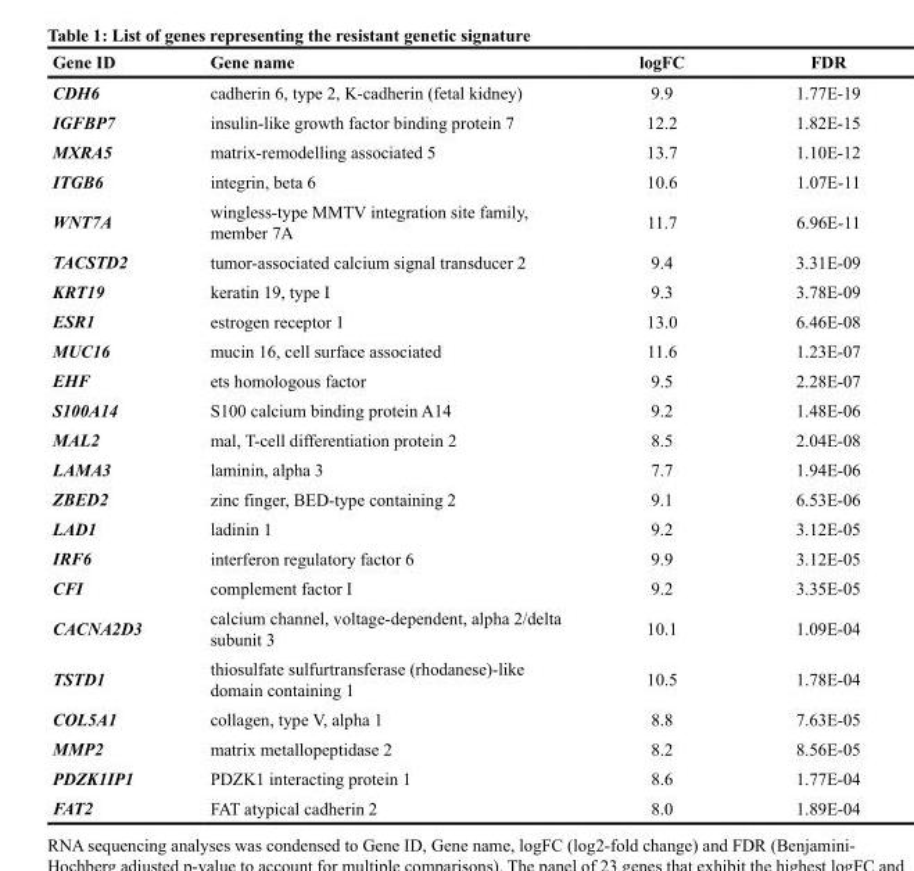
<table><thead><tr><td>Gene ID</td><td>Gene name</td><td>logFC</td><td>FDR</td></tr></thead><tbody><tr><td>CDH6</td><td>cadherin 6, type 2, K-cadherin (fetal kidney)</td><td>9.9</td><td>1.77E-19</td></tr><tr><td>IGFBP7</td><td>insulin-like growth factor binding protein 7</td><td>12.2</td><td>1.82E-15</td></tr><tr><td>MXRA5</td><td>matrix-remodelling associated 5</td><td>13.7</td><td>1.10E-12</td></tr><tr><td>ITGB6</td><td>integrin, beta 6</td><td>10.6</td><td>1.07E-11</td></tr><tr><td>WNT7A</td><td>wingless-type MMTV integration site family, member 7A</td><td>11.7</td><td>6.96E-11</td></tr><tr><td>TACSTD2</td><td>tumor-associated calcium signal transducer 2</td><td>9.4</td><td>3.31E-09</td></tr><tr><td>KRT19</td><td>keratin 19, type I</td><td>9.3</td><td>3.78E-09</td></tr><tr><td>ESR1</td><td>estrogen receptor 1</td><td>13.0</td><td>6.46E-08</td></tr><tr><td>MUC16</td><td>mucin 16, cell surface associated</td><td>11.6</td><td>1.23E-07</td></tr><tr><td>EHF</td><td>ets homologous factor</td><td>9.5</td><td>2.28E-07</td></tr><tr><td>S100A14</td><td>S100 calcium binding protein A14</td><td>9.2</td><td>1.48E-06</td></tr><tr><td>MAL2</td><td>mal, T-cell differentiation protein 2</td><td>8.5</td><td>2.04E-08</td></tr><tr><td>LAMA3</td><td>laminin, alpha 3</td><td>7.7</td><td>1.94E-06</td></tr><tr><td>ZBED2</td><td>zinc finger, BED-type containing 2</td><td>9.1</td><td>6.53E-06</td></tr><tr><td>LAD1</td><td>ladinin 1</td><td>9.2</td><td>3.12E-05</td></tr><tr><td>IRF6</td><td>interferon regulatory factor 6</td><td>9.9</td><td>3.12E-05</td></tr><tr><td>CFI</td><td>complement factor I</td><td>9.2</td><td>3.35E-05</td></tr><tr><td>CACNA2D3</td><td>calcium channel, voltage-dependent, alpha 2/delta subunit 3</td><td>10.1</td><td>1.09E-04</td></tr><tr><td>TSTD1</td><td>thiosulfate sulfurtransferase (rhodanese)-like domain containing 1</td><td>10.5</td><td>1.78E-04</td></tr><tr><td>COL5A1</td><td>collagen, type V, alpha 1</td><td>8.8</td><td>7.63E-05</td></tr><tr><td>MMP2</td><td>matrix metallopeptidase 2</td><td>8.2</td><td>8.56E-05</td></tr><tr><td>PDZK1IP1</td><td>PDZK1 interacting protein 1</td><td>8.6</td><td>1.77E-04</td></tr><tr><td>FAT2</td><td>FAT atypical cadherin 2</td><td>8.0</td><td>1.89E-04</td></tr></tbody></table>